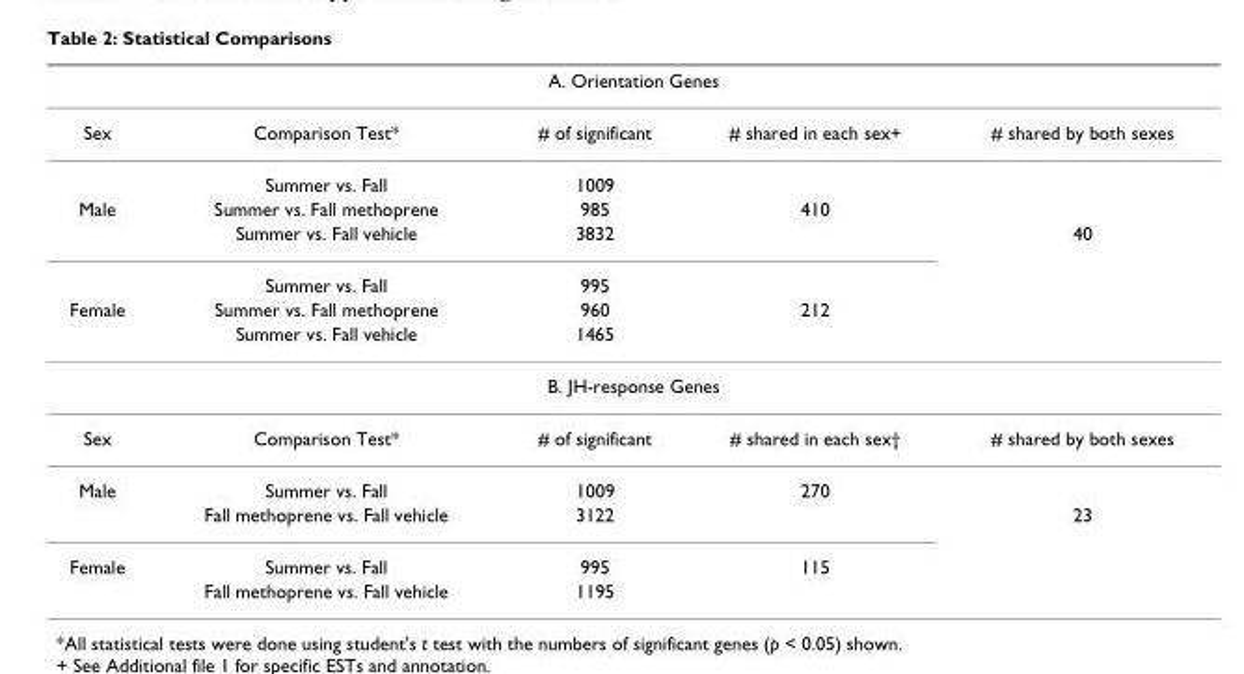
<table><thead><tr><td colspan="5">A. Orientation Genes</td></tr><tr><td>Sex</td><td>Comparison Test*</td><td># of significant</td><td># shared in each sex+</td><td># shared by both sexes</td></tr></thead><tbody><tr><td></td><td>Summer vs. Fall</td><td>1009</td><td></td><td></td></tr><tr><td rowspan="3">Male</td><td>Summer vs. Fall methoprene</td><td>985</td><td>410</td><td></td></tr><tr><td>Summer vs. Fall vehicle</td><td>3832</td><td></td><td>40</td></tr><tr><td>Summer vs. Fall</td><td>995</td><td></td><td></td></tr><tr><td rowspan="2">Female</td><td>Summer vs. Fall methoprene</td><td>960</td><td>212</td><td></td></tr><tr><td>Summer vs. Fall vehicle</td><td>1465</td><td></td><td></td></tr><tr><td colspan="5">B. JH-response Genes</td></tr><tr><td>Sex</td><td>Comparison Test*</td><td># of significant</td><td># shared in each sex†</td><td># shared by both sexes</td></tr><tr><td rowspan="2">Male</td><td>Summer vs. Fall</td><td>1009</td><td>270</td><td></td></tr><tr><td>Fall methoprene vs. Fall vehicle</td><td>3122</td><td></td><td>23</td></tr><tr><td rowspan="2">Female</td><td>Summer vs. Fall</td><td>995</td><td>115</td><td></td></tr><tr><td>Fall methoprene vs. Fall vehicle</td><td>1195</td><td></td><td></td></tr></tbody></table>